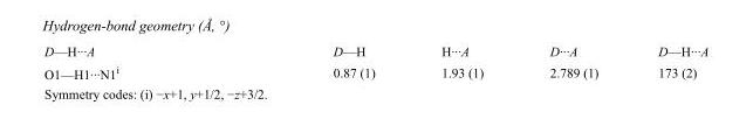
<table><tbody><tr><td>D—H···A</td><td>D—H</td><td>H···A</td><td>D···A</td><td>D—H···A</td></tr><tr><td>O1—H1···N1<sup>i</sup></td><td>0.87 (1)</td><td>1.93 (1)</td><td>2.789 (1)</td><td>173 (2)</td></tr></tbody></table>